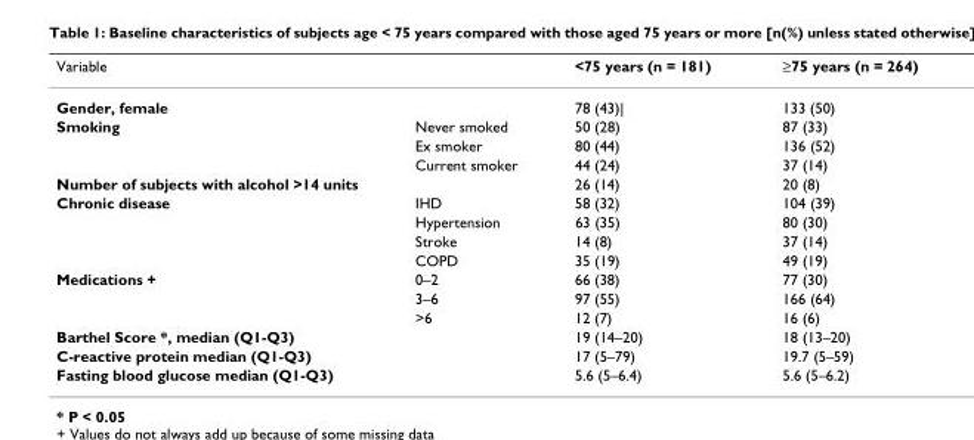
<table><thead><tr><td>Variable</td><td></td><td>&lt;75 years (n = 181)</td><td>≥75 years (n = 264)</td></tr></thead><tbody><tr><td>Gender, female</td><td></td><td>78 (43)|</td><td>133 (50)</td></tr><tr><td rowspan="3">Smoking</td><td>Never smoked</td><td>50 (28)</td><td>87 (33)</td></tr><tr><td>Ex smoker</td><td>80 (44)</td><td>136 (52)</td></tr><tr><td>Current smoker</td><td>44 (24)</td><td>37 (14)</td></tr><tr><td>Number of subjects with alcohol &gt;14 units</td><td></td><td>26 (14)</td><td>20 (8)</td></tr><tr><td rowspan="4">Chronic disease</td><td>IHD</td><td>58 (32)</td><td>104 (39)</td></tr><tr><td>Hypertension</td><td>63 (35)</td><td>80 (30)</td></tr><tr><td>Stroke</td><td>14 (8)</td><td>37 (14)</td></tr><tr><td>COPD</td><td>35 (19)</td><td>49 (19)</td></tr><tr><td rowspan="3">Medications +</td><td>0–2</td><td>66 (38)</td><td>77 (30)</td></tr><tr><td>3–6</td><td>97 (55)</td><td>166 (64)</td></tr><tr><td>&gt;6</td><td>12 (7)</td><td>16 (6)</td></tr><tr><td>Barthel Score *, median (Q1-Q3)</td><td></td><td>19 (14–20)</td><td>18 (13–20)</td></tr><tr><td>C-reactive protein median (Q1-Q3)</td><td></td><td>17 (5–79)</td><td>19.7 (5–59)</td></tr><tr><td>Fasting blood glucose median (Q1-Q3)</td><td></td><td>5.6 (5–6.4)</td><td>5.6 (5–6.2)</td></tr></tbody></table>